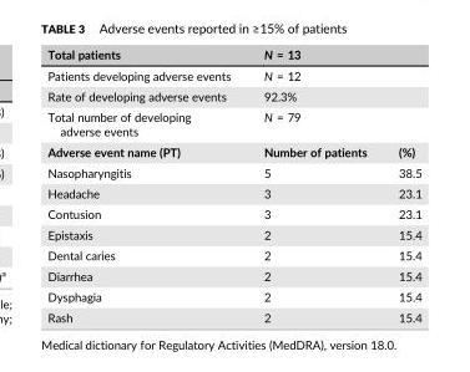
<table><thead><tr><td>Total patients</td><td colspan="2">N = 13</td></tr></thead><tbody><tr><td>Patients developing adverse events</td><td colspan="2">N = 12</td></tr><tr><td>Rate of developing adverse events</td><td colspan="2">92.3%</td></tr><tr><td>Total number of developing adverse events</td><td colspan="2">N = 79</td></tr><tr><td>Adverse event name (PT)</td><td>Number of patients</td><td>(%)</td></tr><tr><td>Nasopharyngitis</td><td>5</td><td>38.5</td></tr><tr><td>Headache</td><td>3</td><td>23.1</td></tr><tr><td>Contusion</td><td>3</td><td>23.1</td></tr><tr><td>Epistaxis</td><td>2</td><td>15.4</td></tr><tr><td>Dental caries</td><td>2</td><td>15.4</td></tr><tr><td>Diarrhea</td><td>2</td><td>15.4</td></tr><tr><td>Dysphagia</td><td>2</td><td>15.4</td></tr><tr><td>Rash</td><td>2</td><td>15.4</td></tr></tbody></table>